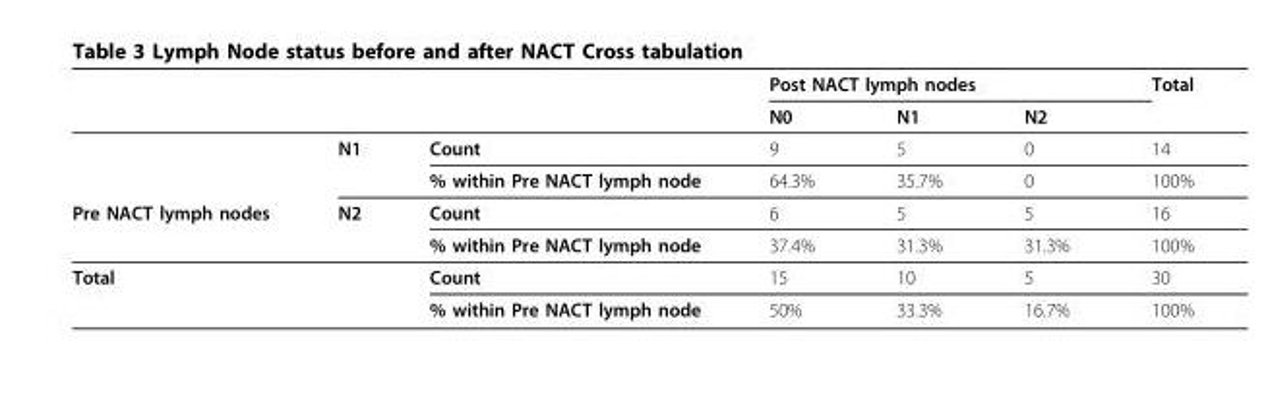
<table><thead><tr><td rowspan="2"></td><td rowspan="2"></td><td rowspan="2"></td><td colspan="3">Post NACT lymph nodes</td><td rowspan="2">Total</td></tr><tr><td>N0</td><td>N1</td><td>N2</td></tr></thead><tbody><tr><td></td><td>N1</td><td>Count</td><td>9</td><td>5</td><td>0</td><td>14</td></tr><tr><td></td><td></td><td>% within Pre NACT lymph node</td><td>64.3%</td><td>35.7%</td><td>0</td><td>100%</td></tr><tr><td rowspan="2">Pre NACT lymph nodes</td><td>N2</td><td>Count</td><td>6</td><td>5</td><td>5</td><td>16</td></tr><tr><td></td><td>% within Pre NACT lymph node</td><td>37.4%</td><td>31.3%</td><td>31.3%</td><td>100%</td></tr><tr><td colspan="2">Total</td><td>Count</td><td>15</td><td>10</td><td>5</td><td>30</td></tr><tr><td></td><td></td><td>% within Pre NACT lymph node</td><td>50%</td><td>33.3%</td><td>16.7%</td><td>100%</td></tr></tbody></table>